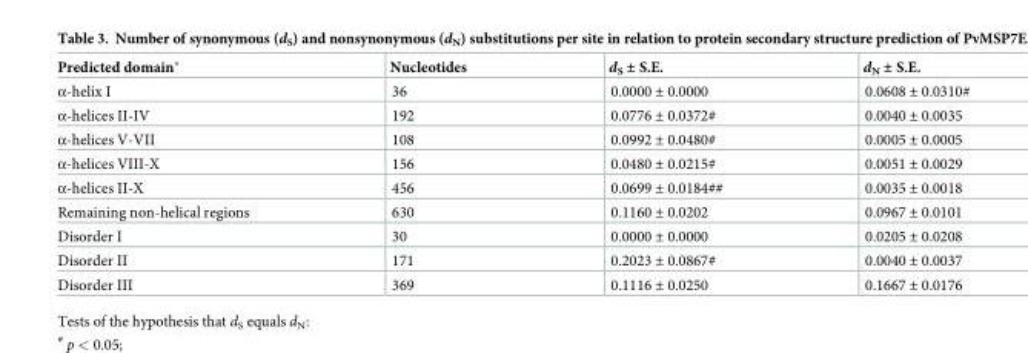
<table><thead><tr><td>Predicted domain*</td><td>Nucleotides</td><td>d<sub>S</sub> ± S.E.</td><td>d<sub>N</sub> ± S.E.</td></tr></thead><tbody><tr><td>α-helix I</td><td>36</td><td>0.0000 ± 0.0000</td><td>0.0608 ± 0.0310#</td></tr><tr><td>α-helices II-IV</td><td>192</td><td>0.0776 ± 0.0372#</td><td>0.0040 ± 0.0035</td></tr><tr><td>α-helices V-VII</td><td>108</td><td>0.0992 ± 0.0480#</td><td>0.0005 ± 0.0005</td></tr><tr><td>α-helices VIII-X</td><td>156</td><td>0.0480 ± 0.0215#</td><td>0.0051 ± 0.0029</td></tr><tr><td>α-helices II-X</td><td>456</td><td>0.0699 ± 0.0184##</td><td>0.0035 ± 0.0018</td></tr><tr><td>Remaining non-helical regions</td><td>630</td><td>0.1160 ± 0.0202</td><td>0.0967 ± 0.0101</td></tr><tr><td>Disorder I</td><td>30</td><td>0.0000 ± 0.0000</td><td>0.0205 ± 0.0208</td></tr><tr><td>Disorder II</td><td>171</td><td>0.2023 ± 0.0867#</td><td>0.0040 ± 0.0037</td></tr><tr><td>Disorder III</td><td>369</td><td>0.1116 ± 0.0250</td><td>0.1667 ± 0.0176</td></tr></tbody></table>